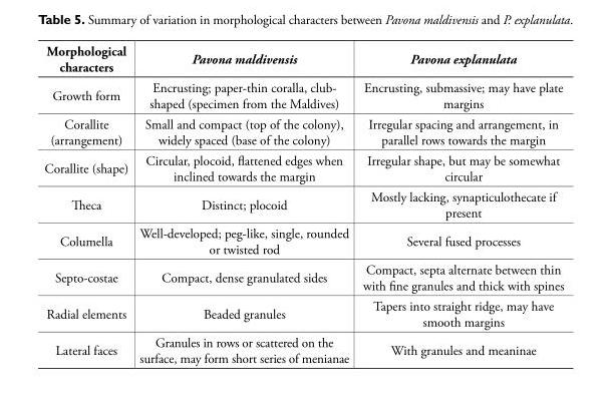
<table><thead><tr><td>Morphological characters</td><td>Pavona maldivensis</td><td>Pavona explanulata</td></tr></thead><tbody><tr><td>Growth form</td><td>Encrusting; paper-thin coralla, club- shaped (specimen from the Maldives)</td><td>Encrusting, submassive; may have plate margins</td></tr><tr><td>Corallite (arrangement)</td><td>Small and compact (top of the colony), widely spaced (base of the colony)</td><td>Irregular spacing and arrangement, in parallel rows towards the margin</td></tr><tr><td>Corallite (shape)</td><td>Circular, plocoid, flattened edges when inclined towards the margin</td><td>Irregular shape, but may be somewhat circular</td></tr><tr><td>Theca</td><td>Distinct; plocoid</td><td>Mostly lacking, synapticulothecate if present</td></tr><tr><td>Columella</td><td>Well-developed; peg-like, single, rounded or twisted rod</td><td>Several fused processes</td></tr><tr><td>Septo-costae</td><td>Compact, dense granulated sides</td><td>Compact, septa alternate between thin with fine granules and thick with spines</td></tr><tr><td>Radial elements</td><td>Beaded granules</td><td>Tapers into straight ridge, may have smooth margins</td></tr><tr><td>Lateral faces</td><td>Granules in rows or scattered on the surface, may form short series of menianae</td><td>With granules and meaninae</td></tr></tbody></table>